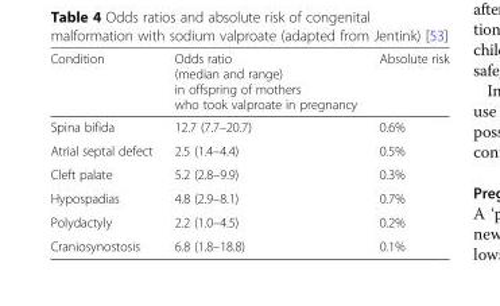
<table><thead><tr><td>Condition</td><td>Odds ratio (median and range) in offspring of mothers who took valproate in pregnancy</td><td>Absolute risk</td></tr></thead><tbody><tr><td>Spina bifida</td><td>12.7 (7.7–20.7)</td><td>0.6%</td></tr><tr><td>Atrial septal defect</td><td>2.5 (1.4–4.4)</td><td>0.5%</td></tr><tr><td>Cleft palate</td><td>5.2 (2.8–9.9)</td><td>0.3%</td></tr><tr><td>Hypospadias</td><td>4.8 (2.9–8.1)</td><td>0.7%</td></tr><tr><td>Polydactyly</td><td>2.2 (1.0–4.5)</td><td>0.2%</td></tr><tr><td>Craniosynostosis</td><td>6.8 (1.8–18.8)</td><td>0.1%</td></tr></tbody></table>